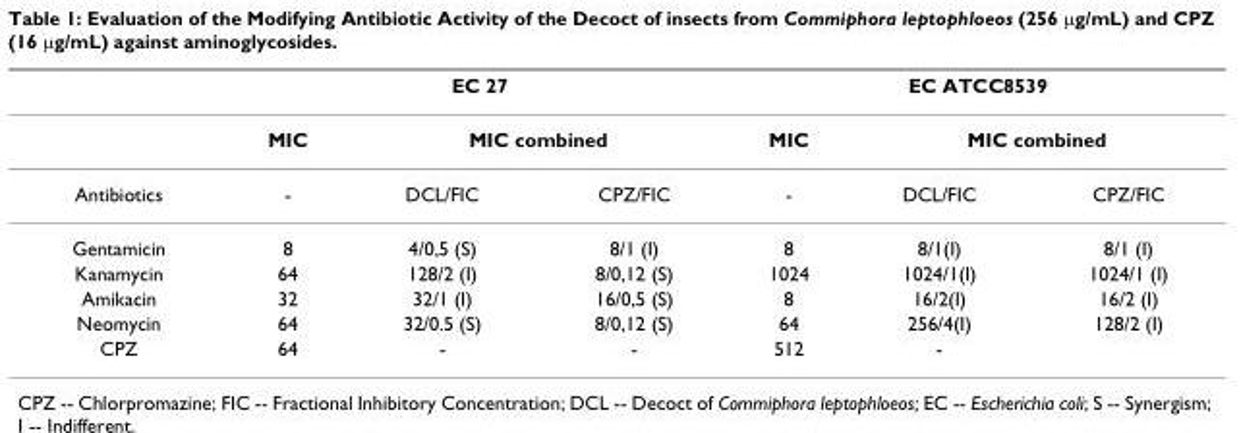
<table><thead><tr><td rowspan="3">Antibiotics</td><td colspan="3">EC 27</td><td colspan="3">EC ATCC8539</td></tr><tr><td rowspan="2">MIC -</td><td colspan="2">MIC combined</td><td rowspan="2">MIC -</td><td colspan="2">MIC combined</td></tr><tr><td>DCL/FIC</td><td>CPZ/FIC</td><td>DCL/FIC</td><td>CPZ/FIC</td></tr></thead><tbody><tr><td>Gentamicin</td><td>8</td><td>4/0,5 (S)</td><td>8/1 (I)</td><td>8</td><td>8/1(I)</td><td>8/1 (I)</td></tr><tr><td>Kanamycin</td><td>64</td><td>128/2 (I)</td><td>8/0,12 (S)</td><td>1024</td><td>1024/1(I)</td><td>1024/1 (I)</td></tr><tr><td>Amikacin</td><td>32</td><td>32/1 (I)</td><td>16/0,5 (S)</td><td>8</td><td>16/2(I)</td><td>16/2 (I)</td></tr><tr><td>Neomycin</td><td>64</td><td>32/0.5 (S)</td><td>8/0,12 (S)</td><td>64</td><td>256/4(I)</td><td>128/2 (I)</td></tr><tr><td>CPZ</td><td>64</td><td>-</td><td>-</td><td>512</td><td>-</td><td></td></tr></tbody></table>